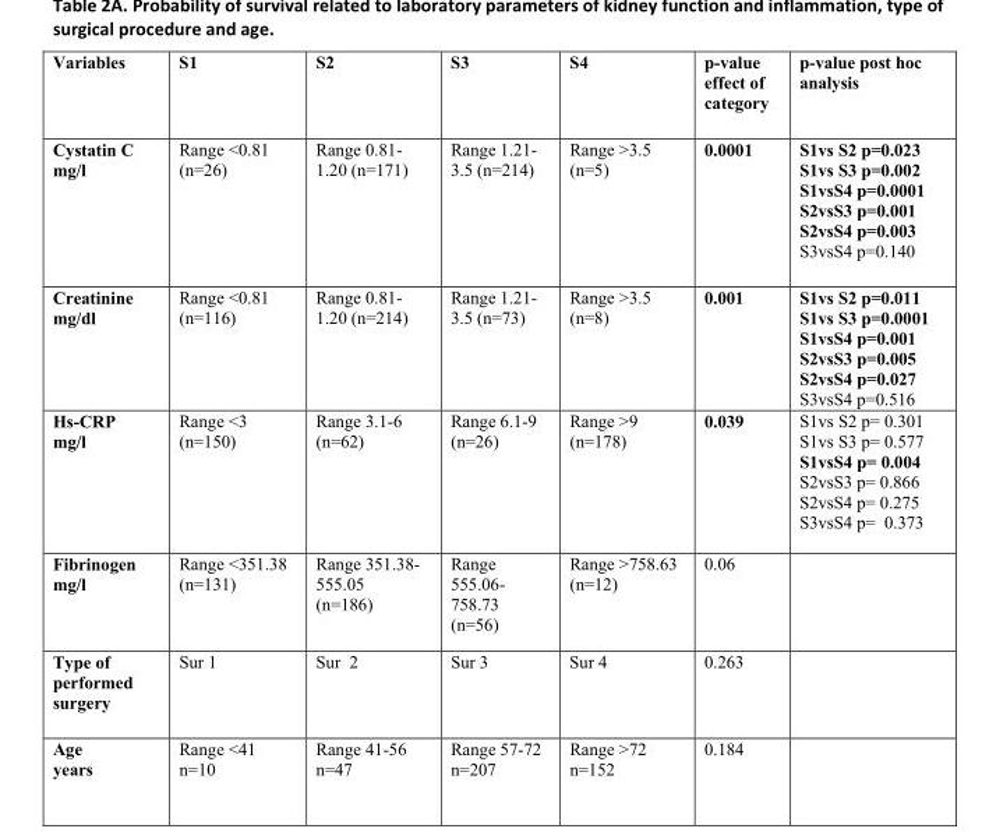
<table><tbody><tr><td>Variables</td><td>S1</td><td>S2</td><td>S3</td><td>S4</td><td>p-value effect of category</td><td>p-value post hoc analysis</td></tr><tr><td>Cystatin C mg/l</td><td>Range &lt;0.81 (n=26)</td><td>Range 0.81- 1.20 (n=171)</td><td>Range 1.21- 3.5 (n=214)</td><td>Range &gt;3.5 (n=5)</td><td>0.0001</td><td>S1vs S2 p=0.023 S1vs S3 p=0.002 S1vsS4 p=0.0001 S2vsS3 p=0.001 S2vsS4 p=0.003 S3vsS4 p=0.140</td></tr><tr><td>Creatinine mg/dl</td><td>Range &lt;0.81 (n=116)</td><td>Range 0.81- 1.20 (n=214)</td><td>Range 1.21- 3.5 (n=73)</td><td>Range &gt;3.5 (n=8)</td><td>0.001</td><td>S1vs S2 p=0.011 S1vs S3 p=0.0001 S1vsS4 p=0.001 S2vsS3 p=0.005 S2vsS4 p=0.027 S3vsS4 p=0.516</td></tr><tr><td>Hs-CRP mg/l</td><td>Range &lt;3 (n=150)</td><td>Range 3.1-6 (n=62)</td><td>Range 6.1-9 (n=26)</td><td>Range &gt;9 (n=178)</td><td>0.039</td><td>S1vs S2 p= 0.301 S1vs S3 p= 0.577 S1vsS4 p= 0.004 S2vsS3 p= 0.866 S2vsS4 p= 0.275 S3vsS4 p= 0.373</td></tr><tr><td>Fibrinogen mg/l</td><td>Range &lt;351.38 (n=131)</td><td>Range 351.38- 555.05 (n=186)</td><td>Range 555.06- 758.73 (n=56)</td><td>Range &gt;758.63 (n=12)</td><td>0.06</td><td></td></tr><tr><td>Type of performed surgery</td><td>Sur 1</td><td>Sur 2</td><td>Sur 3</td><td>Sur 4</td><td>0.263</td><td></td></tr><tr><td>Age years</td><td>Range &lt;41 n=10</td><td>Range 41-56 n=47</td><td>Range 57-72 n=207</td><td>Range &gt;72 n=152</td><td>0.184</td><td></td></tr></tbody></table>